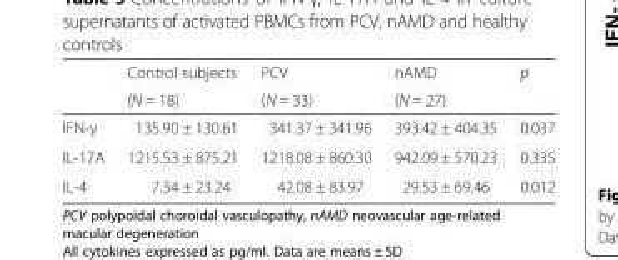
<table><thead><tr><td rowspan="2"></td><td rowspan="2">Control subjects (N = 18)</td><td rowspan="2">PCV (N = 33)</td><td rowspan="2">nAMD (N = 27)</td><td rowspan="2">p</td></tr><tr></tr></thead><tbody><tr><td>IFN-γ</td><td>135.90 ± 130.61</td><td>341.37 ± 341.96</td><td>393.42 ± 404.35</td><td>0.037</td></tr><tr><td>IL-17A</td><td>1215.53 ± 875.21</td><td>1218.08 ± 860.30</td><td>942.09 ± 570.23</td><td>0.335</td></tr><tr><td>IL-4</td><td>7.34 ± 23.24</td><td>42.08 ± 83.97</td><td>29.53 ± 69.46</td><td>0.012</td></tr></tbody></table>